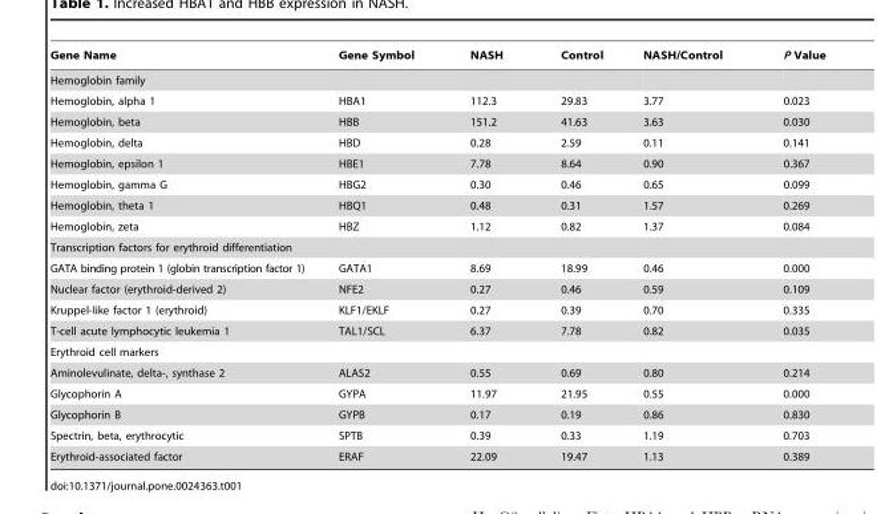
<table><thead><tr><td>Gene Name</td><td>Gene Symbol</td><td>NASH</td><td>Control</td><td>NASH/Control</td><td>P Value</td></tr></thead><tbody><tr><td colspan="6">Hemoglobin family</td></tr><tr><td>Hemoglobin, alpha 1</td><td>HBA1</td><td>112.3</td><td>29.83</td><td>3.77</td><td>0.023</td></tr><tr><td>Hemoglobin, beta</td><td>HBB</td><td>151.2</td><td>41.63</td><td>3.63</td><td>0.030</td></tr><tr><td>Hemoglobin, delta</td><td>HBD</td><td>0.28</td><td>2.59</td><td>0.11</td><td>0.141</td></tr><tr><td>Hemoglobin, epsilon 1</td><td>HBE1</td><td>7.78</td><td>8.64</td><td>0.90</td><td>0.367</td></tr><tr><td>Hemoglobin, gamma G</td><td>HBG2</td><td>0.30</td><td>0.46</td><td>0.65</td><td>0.099</td></tr><tr><td>Hemoglobin, theta 1</td><td>HBQ1</td><td>0.48</td><td>0.31</td><td>1.57</td><td>0.269</td></tr><tr><td>Hemoglobin, zeta</td><td>HBZ</td><td>1.12</td><td>0.82</td><td>1.37</td><td>0.084</td></tr><tr><td colspan="6">Transcription factors for erythroid differentiation</td></tr><tr><td>GATA binding protein 1 (globin transcription factor 1)</td><td>GATA1</td><td>8.69</td><td>18.99</td><td>0.46</td><td>0.000</td></tr><tr><td>Nuclear factor (erythroid-derived 2)</td><td>NFE2</td><td>0.27</td><td>0.46</td><td>0.59</td><td>0.109</td></tr><tr><td>Kruppel-like factor 1 (erythroid)</td><td>KLF1/EKLF</td><td>0.27</td><td>0.39</td><td>0.70</td><td>0.335</td></tr><tr><td>T-cell acute lymphocytic leukemia 1</td><td>TAL1/SCL</td><td>6.37</td><td>7.78</td><td>0.82</td><td>0.035</td></tr><tr><td colspan="6">Erythroid cell markers</td></tr><tr><td>Aminolevulinate, delta-, synthase 2</td><td>ALAS2</td><td>0.55</td><td>0.69</td><td>0.80</td><td>0.214</td></tr><tr><td>Glycophorin A</td><td>GYPA</td><td>11.97</td><td>21.95</td><td>0.55</td><td>0.000</td></tr><tr><td>Glycophorin B</td><td>GYPB</td><td>0.17</td><td>0.19</td><td>0.86</td><td>0.830</td></tr><tr><td>Spectrin, beta, erythrocytic</td><td>SPTB</td><td>0.39</td><td>0.33</td><td>1.19</td><td>0.703</td></tr><tr><td>Erythroid-associated factor</td><td>ERAF</td><td>22.09</td><td>19.47</td><td>1.13</td><td>0.389</td></tr></tbody></table>